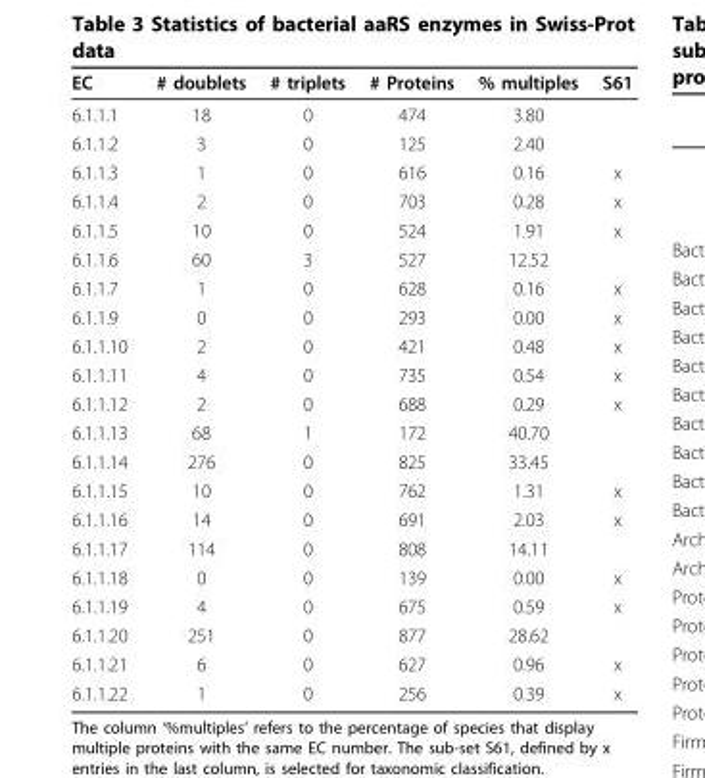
<table><thead><tr><td>EC</td><td># doublets</td><td># triplets</td><td># Proteins</td><td>% multiples</td><td>S61</td></tr></thead><tbody><tr><td>6.1.1.1</td><td>18</td><td>0</td><td>474</td><td>3.80</td><td></td></tr><tr><td>6.1.1.2</td><td>3</td><td>0</td><td>125</td><td>2.40</td><td></td></tr><tr><td>6.1.1.3</td><td>1</td><td>0</td><td>616</td><td>0.16</td><td>x</td></tr><tr><td>6.1.1.4</td><td>2</td><td>0</td><td>703</td><td>0.28</td><td>x</td></tr><tr><td>6.1.1.5</td><td>10</td><td>0</td><td>524</td><td>1.91</td><td>x</td></tr><tr><td>6.1.1.6</td><td>60</td><td>3</td><td>527</td><td>12.52</td><td></td></tr><tr><td>6.1.1.7</td><td>1</td><td>0</td><td>628</td><td>0.16</td><td>x</td></tr><tr><td>6.1.1.9</td><td>0</td><td>0</td><td>293</td><td>0.00</td><td>x</td></tr><tr><td>6.1.1.10</td><td>2</td><td>0</td><td>421</td><td>0.48</td><td>x</td></tr><tr><td>6.1.1.11</td><td>4</td><td>0</td><td>735</td><td>0.54</td><td>x</td></tr><tr><td>6.1.1.12</td><td>2</td><td>0</td><td>688</td><td>0.29</td><td>x</td></tr><tr><td>6.1.1.13</td><td>68</td><td>1</td><td>172</td><td>40.70</td><td></td></tr><tr><td>6.1.1.14</td><td>276</td><td>0</td><td>825</td><td>33.45</td><td></td></tr><tr><td>6.1.1.15</td><td>10</td><td>0</td><td>762</td><td>1.31</td><td>x</td></tr><tr><td>6.1.1.16</td><td>14</td><td>0</td><td>691</td><td>2.03</td><td>x</td></tr><tr><td>6.1.1.17</td><td>114</td><td>0</td><td>808</td><td>14.11</td><td></td></tr><tr><td>6.1.1.18</td><td>0</td><td>0</td><td>139</td><td>0.00</td><td>x</td></tr><tr><td>6.1.1.19</td><td>4</td><td>0</td><td>675</td><td>0.59</td><td>x</td></tr><tr><td>6.1.1.20</td><td>251</td><td>0</td><td>877</td><td>28.62</td><td></td></tr><tr><td>6.1.1.21</td><td>6</td><td>0</td><td>627</td><td>0.96</td><td>x</td></tr><tr><td>6.1.1.22</td><td>1</td><td>0</td><td>256</td><td>0.39</td><td>x</td></tr></tbody></table>